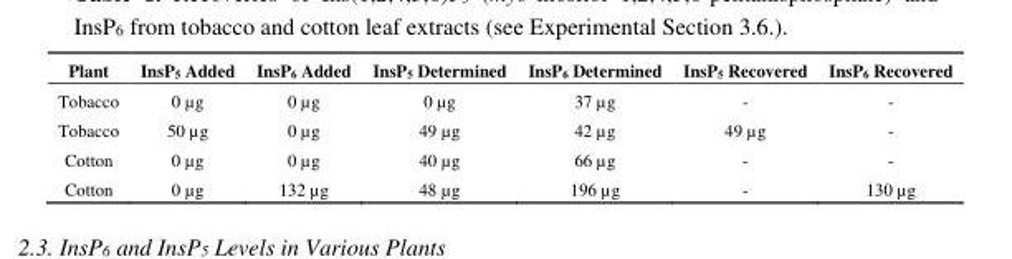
<table><thead><tr><td>Plant</td><td>InsP<sub>5</sub> Added</td><td>InsP<sub>6</sub> Added</td><td>InsP<sub>5</sub> Determined</td><td>InsP<sub>6</sub> Determined</td><td>InsP<sub>5</sub> Recovered</td><td>InsP<sub>6</sub> Recovered</td></tr></thead><tbody><tr><td>Tobacco</td><td>0 µg</td><td>0 µg</td><td>0 µg</td><td>37 µg</td><td>-</td><td>-</td></tr><tr><td>Tobacco</td><td>50 µg</td><td>0 µg</td><td>49 µg</td><td>42 µg</td><td>49 µg</td><td>-</td></tr><tr><td>Cotton</td><td>0 µg</td><td>0 µg</td><td>40 µg</td><td>66 µg</td><td>-</td><td>-</td></tr><tr><td>Cotton</td><td>0 µg</td><td>132 µg</td><td>48 µg</td><td>196 µg</td><td>-</td><td>130 µg</td></tr></tbody></table>